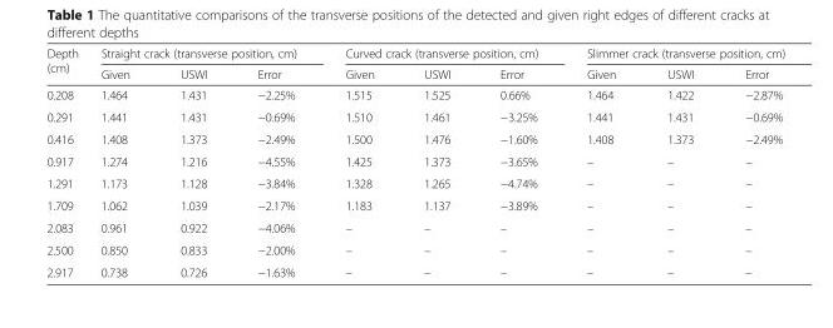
<table><thead><tr><td rowspan="2">Depth (cm)</td><td colspan="3">Straight crack (transverse position, cm)</td><td colspan="3">Curved crack (transverse position, cm)</td><td colspan="3">Slimmer crack (transverse position, cm)</td></tr><tr><td>Given</td><td>USWI</td><td>Error</td><td>Given</td><td>USWI</td><td>Error</td><td>Given</td><td>USWI</td><td>Error</td></tr></thead><tbody><tr><td>0.208</td><td>1.464</td><td>1.431</td><td>−2.25%</td><td>1.515</td><td>1.525</td><td>0.66%</td><td>1.464</td><td>1.422</td><td>−2.87%</td></tr><tr><td>0.291</td><td>1.441</td><td>1.431</td><td>−0.69%</td><td>1.510</td><td>1.461</td><td>−3.25%</td><td>1.441</td><td>1.431</td><td>−0.69%</td></tr><tr><td>0.416</td><td>1.408</td><td>1.373</td><td>−2.49%</td><td>1.500</td><td>1.476</td><td>−1.60%</td><td>1.408</td><td>1.373</td><td>−2.49%</td></tr><tr><td>0.917</td><td>1.274</td><td>1.216</td><td>−4.55%</td><td>1.425</td><td>1.373</td><td>−3.65%</td><td>–</td><td>–</td><td>–</td></tr><tr><td>1.291</td><td>1.173</td><td>1.128</td><td>−3.84%</td><td>1.328</td><td>1.265</td><td>−4.74%</td><td>–</td><td>–</td><td>–</td></tr><tr><td>1.709</td><td>1.062</td><td>1.039</td><td>−2.17%</td><td>1.183</td><td>1.137</td><td>−3.89%</td><td>–</td><td>–</td><td>–</td></tr><tr><td>2.083</td><td>0.961</td><td>0.922</td><td>−4.06%</td><td>–</td><td>–</td><td>–</td><td>–</td><td>–</td><td>–</td></tr><tr><td>2.500</td><td>0.850</td><td>0.833</td><td>−2.00%</td><td>–</td><td>–</td><td>–</td><td>–</td><td>–</td><td>–</td></tr><tr><td>2.917</td><td>0.738</td><td>0.726</td><td>−1.63%</td><td>–</td><td>–</td><td>–</td><td>–</td><td>–</td><td>–</td></tr></tbody></table>